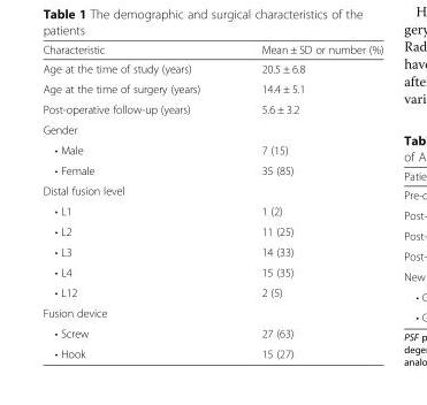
<table><thead><tr><td>Characteristic</td><td>Mean ± SD or number (%)</td></tr></thead><tbody><tr><td>Age at the time of study (years)</td><td>20.5 ± 6.8</td></tr><tr><td>Age at the time of surgery (years)</td><td>14.4 ± 5.1</td></tr><tr><td>Post-operative follow-up (years)</td><td>5.6 ± 3.2</td></tr><tr><td colspan="2">Gender</td></tr><tr><td>• Male</td><td>7 (15)</td></tr><tr><td>• Female</td><td>35 (85)</td></tr><tr><td colspan="2">Distal fusion level</td></tr><tr><td>• L1</td><td>1 (2)</td></tr><tr><td>• L2</td><td>11 (25)</td></tr><tr><td>• L3</td><td>14 (33)</td></tr><tr><td>• L4</td><td>15 (35)</td></tr><tr><td>• L12</td><td>2 (5)</td></tr><tr><td colspan="2">Fusion device</td></tr><tr><td>• Screw</td><td>27 (63)</td></tr><tr><td>• Hook</td><td>15 (27)</td></tr></tbody></table>